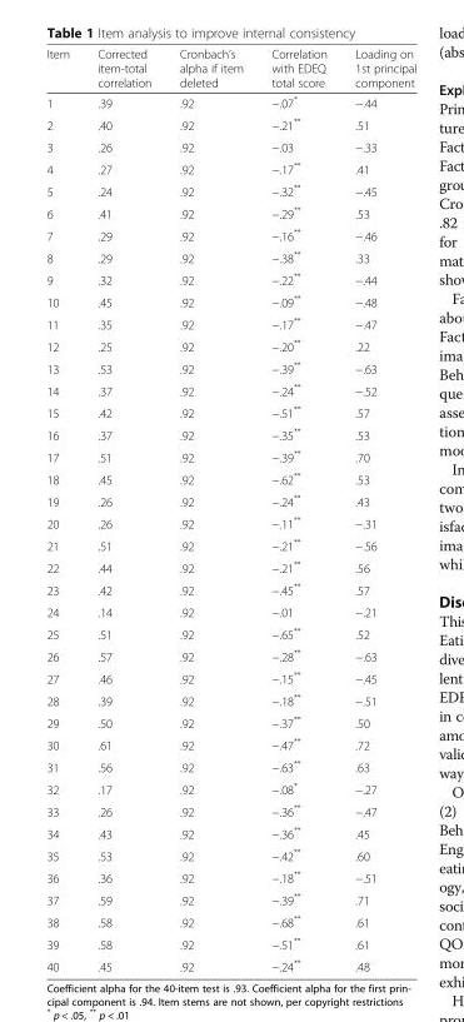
<table><thead><tr><td>Item</td><td>Corrected item-total correlation</td><td>Cronbach’s alpha if item deleted</td><td>Correlation with EDEQ total score</td><td>Loading on 1st principal component</td></tr></thead><tbody><tr><td>1</td><td>.39</td><td>.92</td><td>−.07*</td><td>−.44</td></tr><tr><td>2</td><td>.40</td><td>.92</td><td>−.21**</td><td>.51</td></tr><tr><td>3</td><td>.26</td><td>.92</td><td>−.03</td><td>−.33</td></tr><tr><td>4</td><td>.27</td><td>.92</td><td>−.17**</td><td>.41</td></tr><tr><td>5</td><td>.24</td><td>.92</td><td>−.32**</td><td>−.45</td></tr><tr><td>6</td><td>.41</td><td>.92</td><td>−.29**</td><td>.53</td></tr><tr><td>7</td><td>.29</td><td>.92</td><td>−.16**</td><td>−.46</td></tr><tr><td>8</td><td>.29</td><td>.92</td><td>−.38**</td><td>.33</td></tr><tr><td>9</td><td>.32</td><td>.92</td><td>−.22**</td><td>−.44</td></tr><tr><td>10</td><td>.45</td><td>.92</td><td>−.09**</td><td>−.48</td></tr><tr><td>11</td><td>.35</td><td>.92</td><td>−.17**</td><td>−.47</td></tr><tr><td>12</td><td>.25</td><td>.92</td><td>−.20**</td><td>.22</td></tr><tr><td>13</td><td>.53</td><td>.92</td><td>−.39**</td><td>−.63</td></tr><tr><td>14</td><td>.37</td><td>.92</td><td>−.24**</td><td>−.52</td></tr><tr><td>15</td><td>.42</td><td>.92</td><td>−.51**</td><td>.57</td></tr><tr><td>16</td><td>.37</td><td>.92</td><td>−.35**</td><td>.53</td></tr><tr><td>17</td><td>.51</td><td>.92</td><td>−.39**</td><td>.70</td></tr><tr><td>18</td><td>.45</td><td>.92</td><td>−.62**</td><td>.53</td></tr><tr><td>19</td><td>.26</td><td>.92</td><td>−.24**</td><td>.43</td></tr><tr><td>20</td><td>.26</td><td>.92</td><td>−.11**</td><td>−.31</td></tr><tr><td>21</td><td>.51</td><td>.92</td><td>−.21**</td><td>−.56</td></tr><tr><td>22</td><td>.44</td><td>.92</td><td>−.21**</td><td>.56</td></tr><tr><td>23</td><td>.42</td><td>.92</td><td>−.45**</td><td>.57</td></tr><tr><td>24</td><td>.14</td><td>.92</td><td>−.01</td><td>−.21</td></tr><tr><td>25</td><td>.51</td><td>.92</td><td>−.65**</td><td>.52</td></tr><tr><td>26</td><td>.57</td><td>.92</td><td>−.28**</td><td>−.63</td></tr><tr><td>27</td><td>.46</td><td>.92</td><td>−.15**</td><td>−.45</td></tr><tr><td>28</td><td>.39</td><td>.92</td><td>−.18**</td><td>−.51</td></tr><tr><td>29</td><td>.50</td><td>.92</td><td>−.37**</td><td>.50</td></tr><tr><td>30</td><td>.61</td><td>.92</td><td>−.47**</td><td>.72</td></tr><tr><td>31</td><td>.56</td><td>.92</td><td>−.63**</td><td>.63</td></tr><tr><td>32</td><td>.17</td><td>.92</td><td>−.08*</td><td>−.27</td></tr><tr><td>33</td><td>.26</td><td>.92</td><td>−.36**</td><td>−.47</td></tr><tr><td>34</td><td>.43</td><td>.92</td><td>−.36**</td><td>.45</td></tr><tr><td>35</td><td>.53</td><td>.92</td><td>−.42**</td><td>.60</td></tr><tr><td>36</td><td>.36</td><td>.92</td><td>−.18**</td><td>−.51</td></tr><tr><td>37</td><td>.59</td><td>.92</td><td>−.39**</td><td>.71</td></tr><tr><td>38</td><td>.58</td><td>.92</td><td>−.68**</td><td>.61</td></tr><tr><td>39</td><td>.58</td><td>.92</td><td>−.51**</td><td>.61</td></tr><tr><td>40</td><td>.45</td><td>.92</td><td>−.24**</td><td>.48</td></tr></tbody></table>